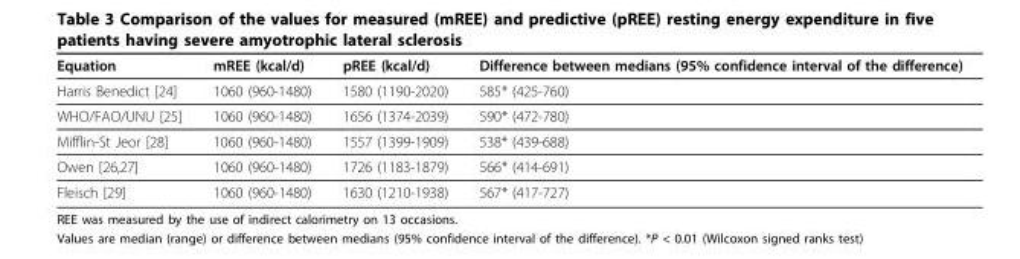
<table><thead><tr><td>Equation</td><td>mREE (kcal/d)</td><td>pREE (kcal/d)</td><td>Difference between medians (95% confidence interval of the difference)</td></tr></thead><tbody><tr><td>Harris Benedict [24]</td><td>1060 (960-1480)</td><td>1580 (1190-2020)</td><td>585* (425-760)</td></tr><tr><td>WHO/FAO/UNU [25]</td><td>1060 (960-1480)</td><td>1656 (1374-2039)</td><td>590* (472-780)</td></tr><tr><td>Mifflin-St Jeor [28]</td><td>1060 (960-1480)</td><td>1557 (1399-1909)</td><td>538* (439-688)</td></tr><tr><td>Owen [26,27]</td><td>1060 (960-1480)</td><td>1726 (1183-1879)</td><td>566* (414-691)</td></tr><tr><td>Fleisch [29]</td><td>1060 (960-1480)</td><td>1630 (1210-1938)</td><td>567* (417-727)</td></tr></tbody></table>